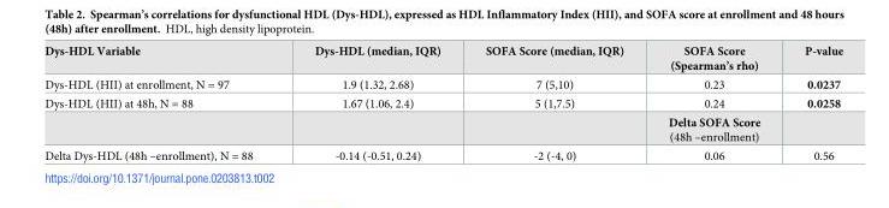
<table><thead><tr><td>Dys-HDL Variable</td><td>Dys-HDL (median, IQR)</td><td>SOFA Score (median, IQR)</td><td>SOFA Score (Spearman’s rho)</td><td>P-value</td></tr></thead><tbody><tr><td>Dys-HDL (HII) at enrollment, N = 97</td><td>1.9 (1.32, 2.68)</td><td>7 (5,10)</td><td>0.23</td><td>0.0237</td></tr><tr><td rowspan="2">Dys-HDL (HII) at 48h, N = 88</td><td>1.67 (1.06, 2.4)</td><td>5 (1,7.5)</td><td>0.24</td><td>0.0258</td></tr><tr><td></td><td></td><td>Delta SOFA Score (48h –enrollment)</td><td></td></tr><tr><td>Delta Dys-HDL (48h –enrollment), N = 88</td><td>-0.14 (-0.51, 0.24)</td><td>-2 (-4, 0)</td><td>0.06</td><td>0.56</td></tr></tbody></table>